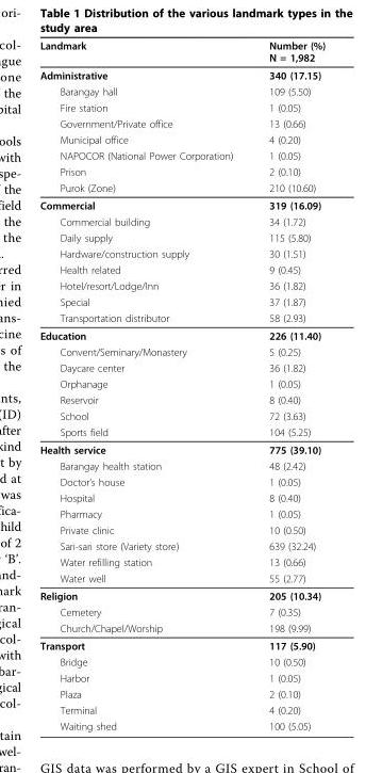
<table><thead><tr><td>Landmark</td><td>Number (%) N = 1,982</td></tr></thead><tbody><tr><td>Administrative</td><td>340 (17.15)</td></tr><tr><td>Barangay hall</td><td>109 (5.50)</td></tr><tr><td>Fire station</td><td>1 (0.05)</td></tr><tr><td>Government/Private office</td><td>13 (0.66)</td></tr><tr><td>Municipal office</td><td>4 (0.20)</td></tr><tr><td>NAPOCOR (National Power Corporation)</td><td>1 (0.05)</td></tr><tr><td>Prison</td><td>2 (0.10)</td></tr><tr><td>Purok (Zone)</td><td>210 (10.60)</td></tr><tr><td>Commercial</td><td>319 (16.09)</td></tr><tr><td>Commercial building</td><td>34 (1.72)</td></tr><tr><td>Daily supply</td><td>115 (5.80)</td></tr><tr><td>Hardware/construction supply</td><td>30 (1.51)</td></tr><tr><td>Health related</td><td>9 (0.45)</td></tr><tr><td>Hotel/resort/Lodge/Inn</td><td>36 (1.82)</td></tr><tr><td>Special</td><td>37 (1.87)</td></tr><tr><td>Transportation distributor</td><td>58 (2.93)</td></tr><tr><td>Education</td><td>226 (11.40)</td></tr><tr><td>Convent/Seminary/Monastery</td><td>5 (0.25)</td></tr><tr><td>Daycare center</td><td>36 (1.82)</td></tr><tr><td>Orphanage</td><td>1 (0.05)</td></tr><tr><td>Reservoir</td><td>8 (0.40)</td></tr><tr><td>School</td><td>72 (3.63)</td></tr><tr><td>Sports field</td><td>104 (5.25)</td></tr><tr><td>Health service</td><td>775 (39.10)</td></tr><tr><td>Barangay health station</td><td>48 (2.42)</td></tr><tr><td>Doctor’s house</td><td>1 (0.05)</td></tr><tr><td>Hospital</td><td>8 (0.40)</td></tr><tr><td>Pharmacy</td><td>1 (0.05)</td></tr><tr><td>Private clinic</td><td>10 (0.50)</td></tr><tr><td>Sari-sari store (Variety store)</td><td>639 (32.24)</td></tr><tr><td>Water refilling station</td><td>13 (0.66)</td></tr><tr><td>Water well</td><td>55 (2.77)</td></tr><tr><td>Religion</td><td>205 (10.34)</td></tr><tr><td>Cemetery</td><td>7 (0.35)</td></tr><tr><td>Church/Chapel/Worship</td><td>198 (9.99)</td></tr><tr><td>Transport</td><td>117 (5.90)</td></tr><tr><td>Bridge</td><td>10 (0.50)</td></tr><tr><td>Harbor</td><td>1 (0.05)</td></tr><tr><td>Plaza</td><td>2 (0.10)</td></tr><tr><td>Terminal</td><td>4 (0.20)</td></tr><tr><td>Waiting shed</td><td>100 (5.05)</td></tr></tbody></table>